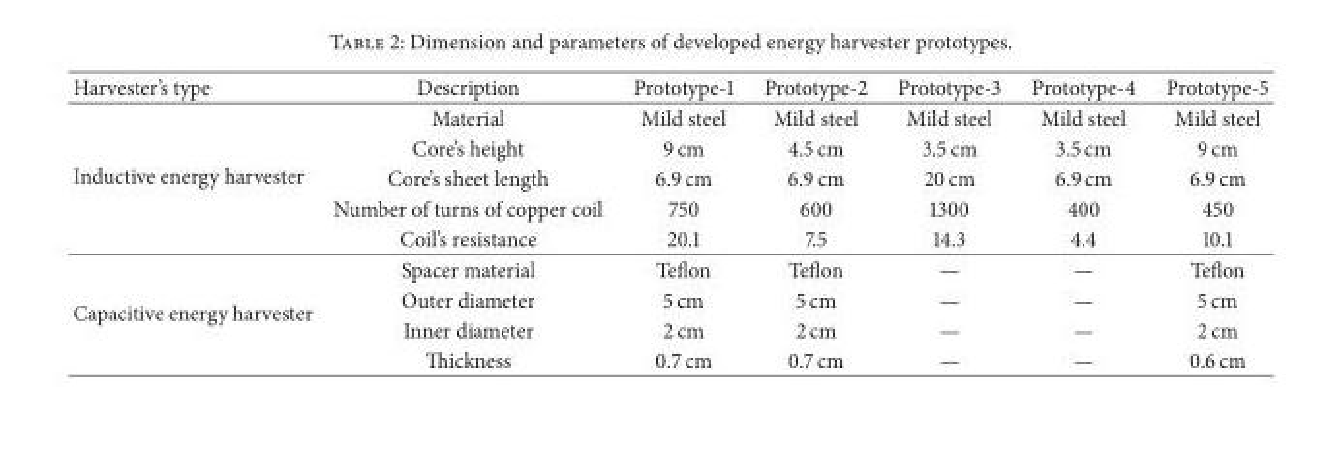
<table><thead><tr><td>Harvester’s type</td><td>Description</td><td>Prototype-1</td><td>Prototype-2</td><td>Prototype-3</td><td>Prototype-4</td><td>Prototype-5</td></tr></thead><tbody><tr><td rowspan="5">Inductive energy harvester</td><td>Material</td><td>Mild steel</td><td>Mild steel</td><td>Mild steel</td><td>Mild steel</td><td>Mild steel</td></tr><tr><td>Core’s height</td><td>9 cm</td><td>4.5 cm</td><td>3.5 cm</td><td>3.5 cm</td><td>9 cm</td></tr><tr><td>Core’s sheet length</td><td>6.9 cm</td><td>6.9 cm</td><td>20 cm</td><td>6.9 cm</td><td>6.9 cm</td></tr><tr><td>Number of turns of copper coil</td><td>750</td><td>600</td><td>1300</td><td>400</td><td>450</td></tr><tr><td>Coil’s resistance</td><td>20.1</td><td>7.5</td><td>14.3</td><td>4.4</td><td>10.1</td></tr><tr><td rowspan="4">Capacitive energy harvester</td><td>Spacer material</td><td>Teflon</td><td>Teflon</td><td>—</td><td>—</td><td>Teflon</td></tr><tr><td>Outer diameter</td><td>5 cm</td><td>5 cm</td><td>—</td><td>—</td><td>5 cm</td></tr><tr><td>Inner diameter</td><td>2 cm</td><td>2 cm</td><td>—</td><td>—</td><td>2 cm</td></tr><tr><td>Thickness</td><td>0.7 cm</td><td>0.7 cm</td><td>—</td><td>—</td><td>0.6 cm</td></tr></tbody></table>